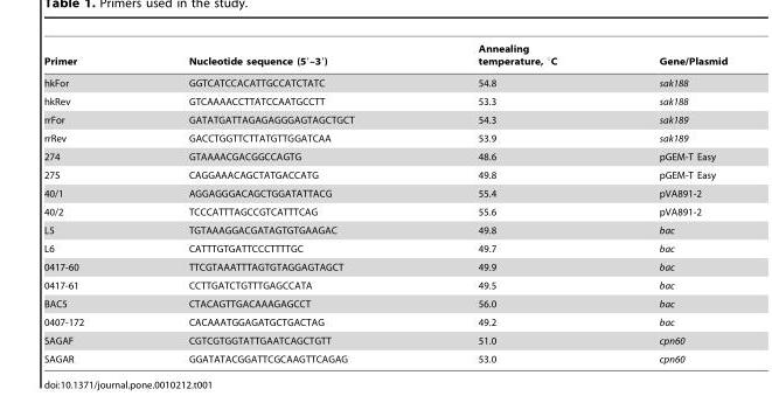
<table><thead><tr><td>Primer</td><td>Nucleotide sequence (5′–3′)</td><td>Annealing temperature, °C</td><td>Gene/Plasmid</td></tr></thead><tbody><tr><td>hkFor</td><td>GGTCATCCACATTGCCATCTATC</td><td>54.8</td><td>sak188</td></tr><tr><td>hkRev</td><td>GTCAAAACCTTATCCAATGCCTT</td><td>53.3</td><td>sak188</td></tr><tr><td>rrFor</td><td>GATATGATTAGAGAGGGAGTAGCTGCT</td><td>54.3</td><td>sak189</td></tr><tr><td>rrRev</td><td>GACCTGGTTCTTATGTTGGATCAA</td><td>53.9</td><td>sak189</td></tr><tr><td>274</td><td>GTAAAACGACGGCCAGTG</td><td>48.6</td><td>pGEM-T Easy</td></tr><tr><td>275</td><td>CAGGAAACAGCTATGACCATG</td><td>49.8</td><td>pGEM-T Easy</td></tr><tr><td>40/1</td><td>AGGAGGGACAGCTGGATATTACG</td><td>55.4</td><td>pVA891-2</td></tr><tr><td>40/2</td><td>TCCCATTTAGCCGTCATTTCAG</td><td>55.6</td><td>pVA891-2</td></tr><tr><td>L5</td><td>TGTAAAGGACGATAGTGTGAAGAC</td><td>49.8</td><td>bac</td></tr><tr><td>L6</td><td>CATTTGTGATTCCCTTTTGC</td><td>49.7</td><td>bac</td></tr><tr><td>0417-60</td><td>TTCGTAAATTTAGTGTAGGAGTAGCT</td><td>49.9</td><td>bac</td></tr><tr><td>0417-61</td><td>CCTTGATCTGTTTGAGCCATA</td><td>49.5</td><td>bac</td></tr><tr><td>BAC5</td><td>CTACAGTTGACAAAGAGCCT</td><td>56.0</td><td>bac</td></tr><tr><td>0407-172</td><td>CACAAATGGAGATGCTGACTAG</td><td>49.2</td><td>bac</td></tr><tr><td>SAGAF</td><td>CGTCGTGGTATTGAATCAGCTGTT</td><td>51.0</td><td>cpn60</td></tr><tr><td>SAGAR</td><td>GGATATACGGATTCGCAAGTTCAGAG</td><td>53.0</td><td>cpn60</td></tr></tbody></table>